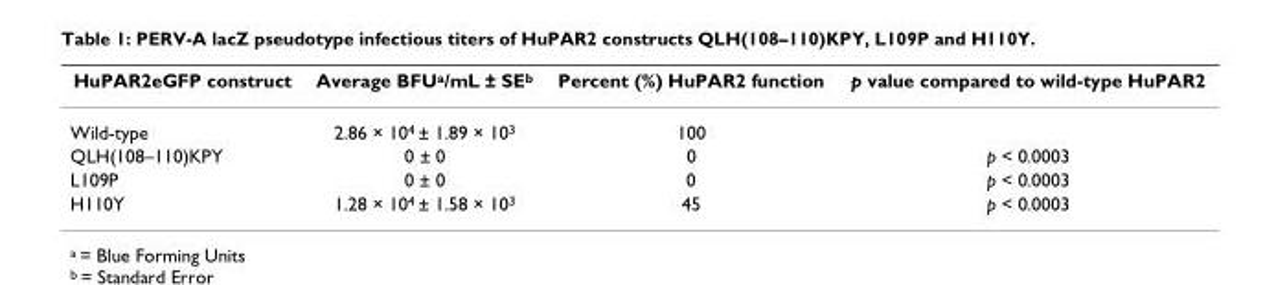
<table><thead><tr><td>HuPAR2eGFP construct</td><td>Average BFU<sup>a</sup>/mL ± SE<sup>b</sup></td><td>Percent (%) HuPAR2 function</td><td>p value compared to wild-type HuPAR2</td></tr></thead><tbody><tr><td>Wild-type</td><td>2.86 × 10<sup>4</sup> ± 1.89 × 10<sup>3</sup></td><td>100</td><td></td></tr><tr><td>QLH(108–110)KPY</td><td>0 ± 0</td><td>0</td><td>p &lt; 0.0003</td></tr><tr><td>L109P</td><td>0 ± 0</td><td>0</td><td>p &lt; 0.0003</td></tr><tr><td>H110Y</td><td>1.28 × 10<sup>4</sup> ± 1.58 × 10<sup>3</sup></td><td>45</td><td>p &lt; 0.0003</td></tr></tbody></table>